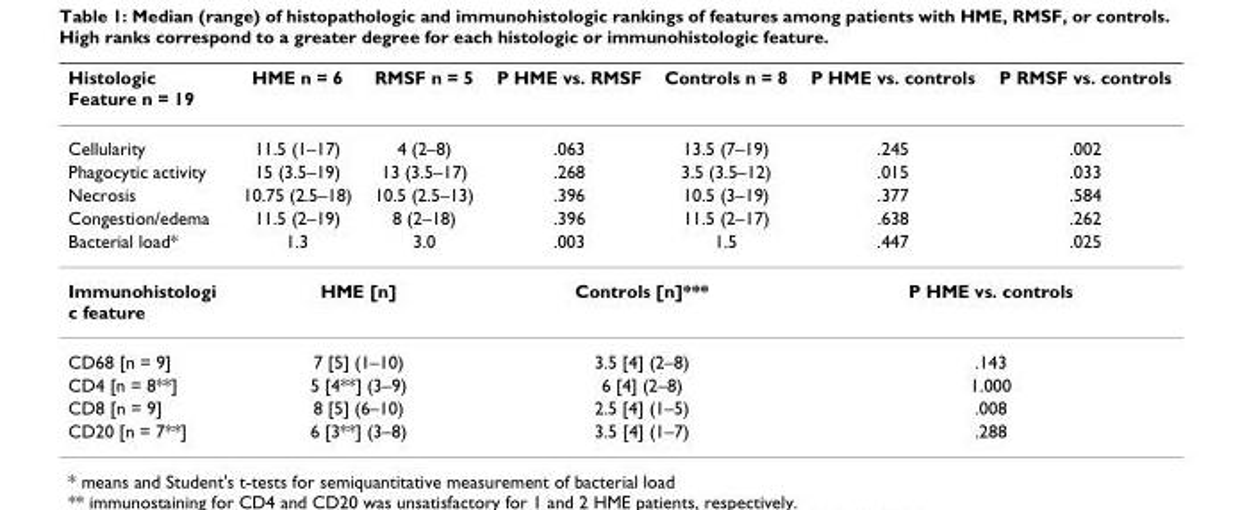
<table><thead><tr><td>Histologic Feature n = 19</td><td>HME n = 6</td><td>RMSF n = 5</td><td>P HME vs. RMSF</td><td>Controls n = 8</td><td>P HME vs. controls</td><td>P RMSF vs. controls</td></tr></thead><tbody><tr><td>Cellularity</td><td>11.5 (1–17)</td><td>4 (2–8)</td><td>.063</td><td>13.5 (7–19)</td><td>.245</td><td>.002</td></tr><tr><td>Phagocytic activity</td><td>15 (3.5–19)</td><td>13 (3.5–17)</td><td>.268</td><td>3.5 (3.5–12)</td><td>.015</td><td>.033</td></tr><tr><td>Necrosis</td><td>10.75 (2.5–18)</td><td>10.5 (2.5–13)</td><td>.396</td><td>10.5 (3–19)</td><td>.377</td><td>.584</td></tr><tr><td>Congestion/edema</td><td>11.5 (2–19)</td><td>8 (2–18)</td><td>.396</td><td>11.5 (2–17)</td><td>.638</td><td>.262</td></tr><tr><td>Bacterial load*</td><td>1.3</td><td>3.0</td><td>.003</td><td>1.5</td><td>.447</td><td>.025</td></tr><tr><td>Immunohistologi c feature</td><td colspan="2">HME [n]</td><td colspan="2">Controls [n]***</td><td colspan="2">P HME vs. controls</td></tr><tr><td>CD68 [n = 9]</td><td colspan="2">7 [5] (1–10)</td><td colspan="2">3.5 [4] (2–8)</td><td colspan="2">.143</td></tr><tr><td>CD4 [n = 8**]</td><td colspan="2">5 [4**] (3–9)</td><td colspan="2">6 [4] (2–8)</td><td colspan="2">1.000</td></tr><tr><td>CD8 [n = 9]</td><td colspan="2">8 [5] (6–10)</td><td colspan="2">2.5 [4] (1–5)</td><td colspan="2">.008</td></tr><tr><td>CD20 [n = 7**]</td><td colspan="2">6 [3**] (3–8)</td><td colspan="2">3.5 [4] (1–7)</td><td colspan="2">.288</td></tr></tbody></table>